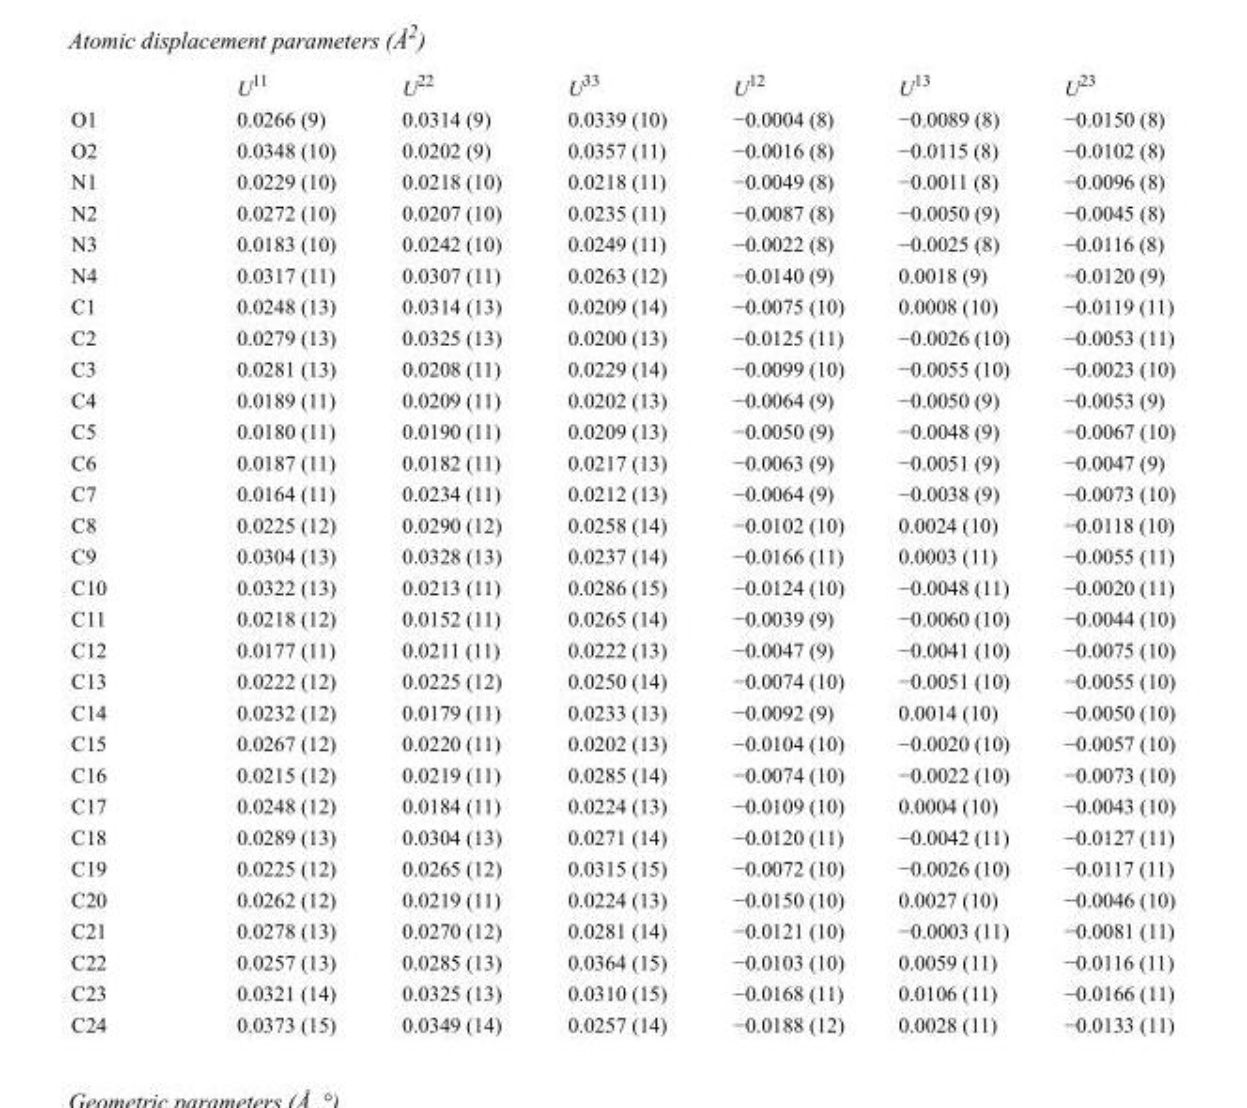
<table><thead><tr><td></td><td>U<sup>11</sup></td><td>U<sup>22</sup></td><td>U<sup>33</sup></td><td>U<sup>12</sup></td><td>U<sup>13</sup></td><td>U<sup>23</sup></td></tr></thead><tbody><tr><td>O1</td><td>0.0266 (9)</td><td>0.0314 (9)</td><td>0.0339 (10)</td><td>−0.0004 (8)</td><td>−0.0089 (8)</td><td>−0.0150 (8)</td></tr><tr><td>O2</td><td>0.0348 (10)</td><td>0.0202 (9)</td><td>0.0357 (11)</td><td>−0.0016 (8)</td><td>−0.0115 (8)</td><td>−0.0102 (8)</td></tr><tr><td>N1</td><td>0.0229 (10)</td><td>0.0218 (10)</td><td>0.0218 (11)</td><td>−0.0049 (8)</td><td>−0.0011 (8)</td><td>−0.0096 (8)</td></tr><tr><td>N2</td><td>0.0272 (10)</td><td>0.0207 (10)</td><td>0.0235 (11)</td><td>−0.0087 (8)</td><td>−0.0050 (9)</td><td>−0.0045 (8)</td></tr><tr><td>N3</td><td>0.0183 (10)</td><td>0.0242 (10)</td><td>0.0249 (11)</td><td>−0.0022 (8)</td><td>−0.0025 (8)</td><td>−0.0116 (8)</td></tr><tr><td>N4</td><td>0.0317 (11)</td><td>0.0307 (11)</td><td>0.0263 (12)</td><td>−0.0140 (9)</td><td>0.0018 (9)</td><td>−0.0120 (9)</td></tr><tr><td>C1</td><td>0.0248 (13)</td><td>0.0314 (13)</td><td>0.0209 (14)</td><td>−0.0075 (10)</td><td>0.0008 (10)</td><td>−0.0119 (11)</td></tr><tr><td>C2</td><td>0.0279 (13)</td><td>0.0325 (13)</td><td>0.0200 (13)</td><td>−0.0125 (11)</td><td>−0.0026 (10)</td><td>−0.0053 (11)</td></tr><tr><td>C3</td><td>0.0281 (13)</td><td>0.0208 (11)</td><td>0.0229 (14)</td><td>−0.0099 (10)</td><td>−0.0055 (10)</td><td>−0.0023 (10)</td></tr><tr><td>C4</td><td>0.0189 (11)</td><td>0.0209 (11)</td><td>0.0202 (13)</td><td>−0.0064 (9)</td><td>−0.0050 (9)</td><td>−0.0053 (9)</td></tr><tr><td>C5</td><td>0.0180 (11)</td><td>0.0190 (11)</td><td>0.0209 (13)</td><td>−0.0050 (9)</td><td>−0.0048 (9)</td><td>−0.0067 (10)</td></tr><tr><td>C6</td><td>0.0187 (11)</td><td>0.0182 (11)</td><td>0.0217 (13)</td><td>−0.0063 (9)</td><td>−0.0051 (9)</td><td>−0.0047 (9)</td></tr><tr><td>C7</td><td>0.0164 (11)</td><td>0.0234 (11)</td><td>0.0212 (13)</td><td>−0.0064 (9)</td><td>−0.0038 (9)</td><td>−0.0073 (10)</td></tr><tr><td>C8</td><td>0.0225 (12)</td><td>0.0290 (12)</td><td>0.0258 (14)</td><td>−0.0102 (10)</td><td>0.0024 (10)</td><td>−0.0118 (10)</td></tr><tr><td>C9</td><td>0.0304 (13)</td><td>0.0328 (13)</td><td>0.0237 (14)</td><td>−0.0166 (11)</td><td>0.0003 (11)</td><td>−0.0055 (11)</td></tr><tr><td>C10</td><td>0.0322 (13)</td><td>0.0213 (11)</td><td>0.0286 (15)</td><td>−0.0124 (10)</td><td>−0.0048 (11)</td><td>−0.0020 (11)</td></tr><tr><td>C11</td><td>0.0218 (12)</td><td>0.0152 (11)</td><td>0.0265 (14)</td><td>−0.0039 (9)</td><td>−0.0060 (10)</td><td>−0.0044 (10)</td></tr><tr><td>C12</td><td>0.0177 (11)</td><td>0.0211 (11)</td><td>0.0222 (13)</td><td>−0.0047 (9)</td><td>−0.0041 (10)</td><td>−0.0075 (10)</td></tr><tr><td>C13</td><td>0.0222 (12)</td><td>0.0225 (12)</td><td>0.0250 (14)</td><td>−0.0074 (10)</td><td>−0.0051 (10)</td><td>−0.0055 (10)</td></tr><tr><td>C14</td><td>0.0232 (12)</td><td>0.0179 (11)</td><td>0.0233 (13)</td><td>−0.0092 (9)</td><td>0.0014 (10)</td><td>−0.0050 (10)</td></tr><tr><td>C15</td><td>0.0267 (12)</td><td>0.0220 (11)</td><td>0.0202 (13)</td><td>−0.0104 (10)</td><td>−0.0020 (10)</td><td>−0.0057 (10)</td></tr><tr><td>C16</td><td>0.0215 (12)</td><td>0.0219 (11)</td><td>0.0285 (14)</td><td>−0.0074 (10)</td><td>−0.0022 (10)</td><td>−0.0073 (10)</td></tr><tr><td>C17</td><td>0.0248 (12)</td><td>0.0184 (11)</td><td>0.0224 (13)</td><td>−0.0109 (10)</td><td>0.0004 (10)</td><td>−0.0043 (10)</td></tr><tr><td>C18</td><td>0.0289 (13)</td><td>0.0304 (13)</td><td>0.0271 (14)</td><td>−0.0120 (11)</td><td>−0.0042 (11)</td><td>−0.0127 (11)</td></tr><tr><td>C19</td><td>0.0225 (12)</td><td>0.0265 (12)</td><td>0.0315 (15)</td><td>−0.0072 (10)</td><td>−0.0026 (10)</td><td>−0.0117 (11)</td></tr><tr><td>C20</td><td>0.0262 (12)</td><td>0.0219 (11)</td><td>0.0224 (13)</td><td>−0.0150 (10)</td><td>0.0027 (10)</td><td>−0.0046 (10)</td></tr><tr><td>C21</td><td>0.0278 (13)</td><td>0.0270 (12)</td><td>0.0281 (14)</td><td>−0.0121 (10)</td><td>−0.0003 (11)</td><td>−0.0081 (11)</td></tr><tr><td>C22</td><td>0.0257 (13)</td><td>0.0285 (13)</td><td>0.0364 (15)</td><td>−0.0103 (10)</td><td>0.0059 (11)</td><td>−0.0116 (11)</td></tr><tr><td>C23</td><td>0.0321 (14)</td><td>0.0325 (13)</td><td>0.0310 (15)</td><td>−0.0168 (11)</td><td>0.0106 (11)</td><td>−0.0166 (11)</td></tr><tr><td>C24</td><td>0.0373 (15)</td><td>0.0349 (14)</td><td>0.0257 (14)</td><td>−0.0188 (12)</td><td>0.0028 (11)</td><td>−0.0133 (11)</td></tr></tbody></table>